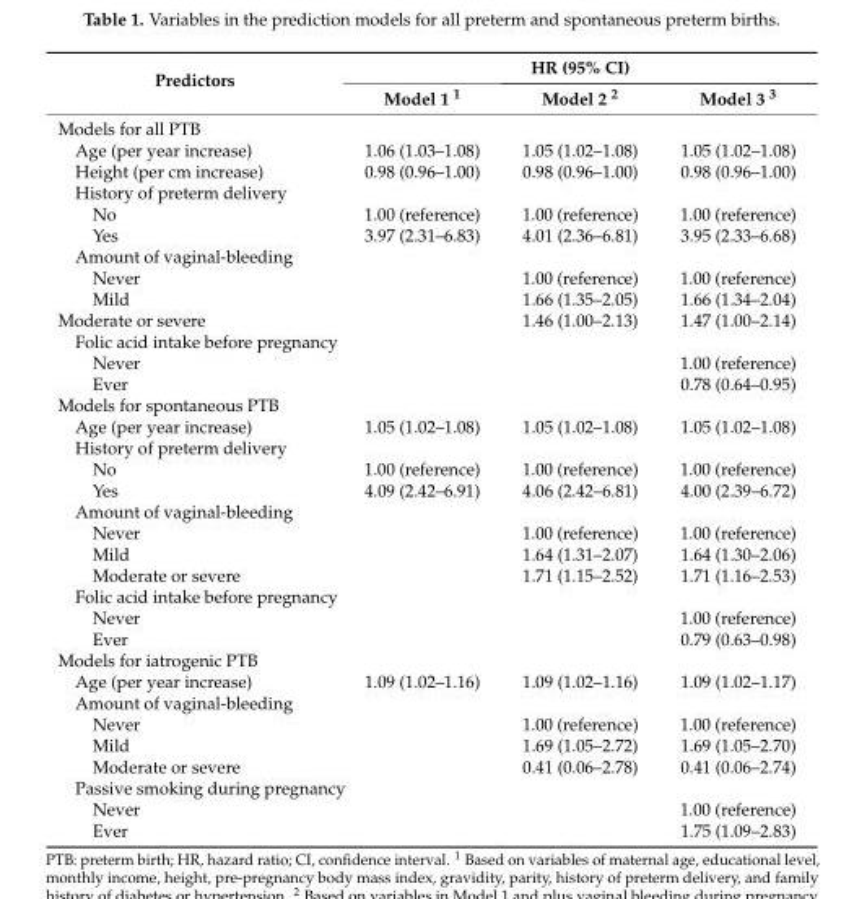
<table><thead><tr><td rowspan="2">Predictors</td><td colspan="3">HR (95% CI)</td></tr><tr><td>Model 1 <sup>1</sup></td><td>Model 2 <sup>2</sup></td><td>Model 3 <sup>3</sup></td></tr></thead><tbody><tr><td colspan="4">Models for all PTB</td></tr><tr><td>Age (per year increase)</td><td>1.06 (1.03–1.08)</td><td>1.05 (1.02–1.08)</td><td>1.05 (1.02–1.08)</td></tr><tr><td>Height (per cm increase)</td><td>0.98 (0.96–1.00)</td><td>0.98 (0.96–1.00)</td><td>0.98 (0.96–1.00)</td></tr><tr><td colspan="4">History of preterm delivery</td></tr><tr><td>No</td><td>1.00 (reference)</td><td>1.00 (reference)</td><td>1.00 (reference)</td></tr><tr><td>Yes</td><td>3.97 (2.31–6.83)</td><td>4.01 (2.36–6.81)</td><td>3.95 (2.33–6.68)</td></tr><tr><td colspan="4">Amount of vaginal-bleeding</td></tr><tr><td>Never</td><td></td><td>1.00 (reference)</td><td>1.00 (reference)</td></tr><tr><td>Mild</td><td></td><td>1.66 (1.35–2.05)</td><td>1.66 (1.34–2.04)</td></tr><tr><td>Moderate or severe</td><td></td><td>1.46 (1.00–2.13)</td><td>1.47 (1.00–2.14)</td></tr><tr><td colspan="4">Folic acid intake before pregnancy</td></tr><tr><td>Never</td><td></td><td></td><td>1.00 (reference)</td></tr><tr><td>Ever</td><td></td><td></td><td>0.78 (0.64–0.95)</td></tr><tr><td colspan="4">Models for spontaneous PTB</td></tr><tr><td>Age (per year increase)</td><td>1.05 (1.02–1.08)</td><td>1.05 (1.02–1.08)</td><td>1.05 (1.02–1.08)</td></tr><tr><td colspan="4">History of preterm delivery</td></tr><tr><td>No</td><td>1.00 (reference)</td><td>1.00 (reference)</td><td>1.00 (reference)</td></tr><tr><td>Yes</td><td>4.09 (2.42–6.91)</td><td>4.06 (2.42–6.81)</td><td>4.00 (2.39–6.72)</td></tr><tr><td colspan="4">Amount of vaginal-bleeding</td></tr><tr><td>Never</td><td></td><td>1.00 (reference)</td><td>1.00 (reference)</td></tr><tr><td>Mild</td><td></td><td>1.64 (1.31–2.07)</td><td>1.64 (1.30–2.06)</td></tr><tr><td>Moderate or severe</td><td></td><td>1.71 (1.15–2.52)</td><td>1.71 (1.16–2.53)</td></tr><tr><td colspan="4">Folic acid intake before pregnancy</td></tr><tr><td>Never</td><td></td><td></td><td>1.00 (reference)</td></tr><tr><td>Ever</td><td></td><td></td><td>0.79 (0.63–0.98)</td></tr><tr><td colspan="4">Models for iatrogenic PTB</td></tr><tr><td>Age (per year increase)</td><td>1.09 (1.02–1.16)</td><td>1.09 (1.02–1.16)</td><td>1.09 (1.02–1.17)</td></tr><tr><td colspan="4">Amount of vaginal-bleeding</td></tr><tr><td>Never</td><td></td><td>1.00 (reference)</td><td>1.00 (reference)</td></tr><tr><td>Mild</td><td></td><td>1.69 (1.05–2.72)</td><td>1.69 (1.05–2.70)</td></tr><tr><td>Moderate or severe</td><td></td><td>0.41 (0.06–2.78)</td><td>0.41 (0.06–2.74)</td></tr><tr><td colspan="4">Passive smoking during pregnancy</td></tr><tr><td>Never</td><td></td><td></td><td>1.00 (reference)</td></tr><tr><td>Ever</td><td></td><td></td><td>1.75 (1.09–2.83)</td></tr></tbody></table>